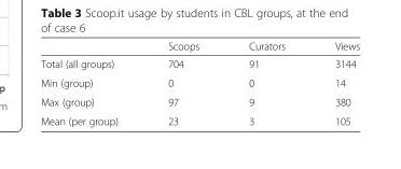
<table><thead><tr><td></td><td>Scoops</td><td>Curators</td><td>Views</td></tr></thead><tbody><tr><td>Total (all groups)</td><td>704</td><td>91</td><td>3144</td></tr><tr><td>Min (group)</td><td>0</td><td>0</td><td>14</td></tr><tr><td>Max (group)</td><td>97</td><td>9</td><td>380</td></tr><tr><td>Mean (per group)</td><td>23</td><td>3</td><td>105</td></tr></tbody></table>